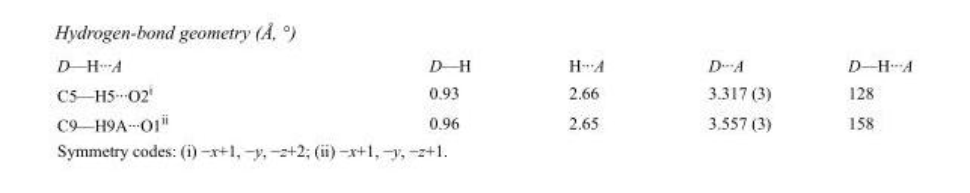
<table><tbody><tr><td>D—H···A</td><td>D—H</td><td>H···A</td><td>D···A</td><td>D—H···A</td></tr><tr><td>C5—H5···O2<sup>i</sup></td><td>0.93</td><td>2.66</td><td>3.317 (3)</td><td>128</td></tr><tr><td>C9—H9A···O1<sup>ii</sup></td><td>0.96</td><td>2.65</td><td>3.557 (3)</td><td>158</td></tr></tbody></table>